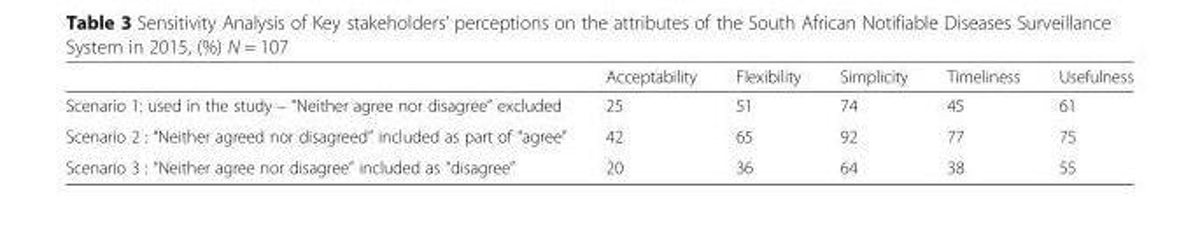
<table><thead><tr><td></td><td>Acceptability</td><td>Flexibility</td><td>Simplicity</td><td>Timeliness</td><td>Usefulness</td></tr></thead><tbody><tr><td>Scenario 1: used in the study – “Neither agree nor disagree” excluded</td><td>25</td><td>51</td><td>74</td><td>45</td><td>61</td></tr><tr><td>Scenario 2 : “Neither agreed nor disagreed” included as part of “agree”</td><td>42</td><td>65</td><td>92</td><td>77</td><td>75</td></tr><tr><td>Scenario 3 : “Neither agree nor disagree” included as “disagree”</td><td>20</td><td>36</td><td>64</td><td>38</td><td>55</td></tr></tbody></table>